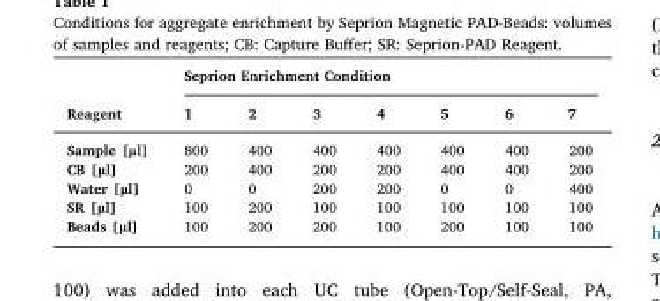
<table><thead><tr><td rowspan="2">Reagent</td><td colspan="7">Seprion Enrichment Condition</td></tr><tr><td>1</td><td>2</td><td>3</td><td>4</td><td>5</td><td>6</td><td>7</td></tr></thead><tbody><tr><td>Sample [µl]</td><td>800</td><td>400</td><td>400</td><td>400</td><td>400</td><td>400</td><td>200</td></tr><tr><td>CB [µl]</td><td>200</td><td>400</td><td>200</td><td>200</td><td>400</td><td>400</td><td>200</td></tr><tr><td>Water [µl]</td><td>0</td><td>0</td><td>200</td><td>200</td><td>0</td><td>0</td><td>400</td></tr><tr><td>SR [µl]</td><td>100</td><td>200</td><td>100</td><td>100</td><td>100</td><td>100</td><td>100</td></tr><tr><td>Beads [µl]</td><td>100</td><td>200</td><td>200</td><td>100</td><td>200</td><td>100</td><td>100</td></tr></tbody></table>